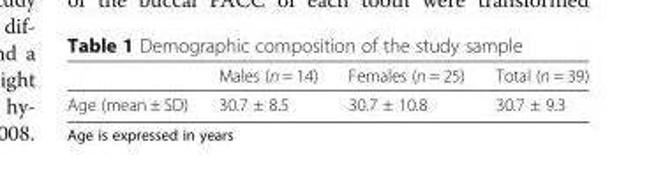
<table><thead><tr><td></td><td>Males (n = 14)</td><td>Females (n = 25)</td><td>Total (n = 39)</td></tr></thead><tbody><tr><td>Age (mean ± SD)</td><td>30.7 ± 8.5</td><td>30.7 ± 10.8</td><td>30.7 ± 9.3</td></tr></tbody></table>